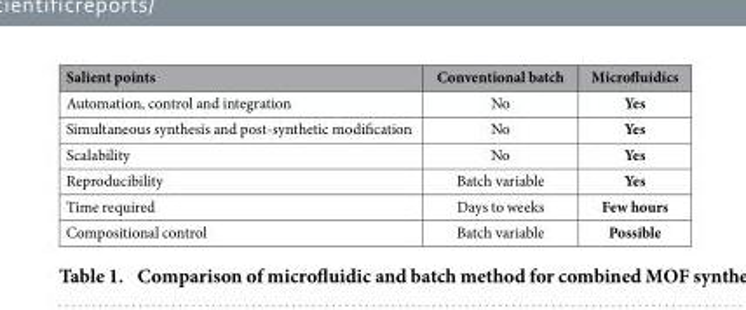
<table><thead><tr><td>Salient points</td><td>Conventional batch</td><td>Microfluidics</td></tr></thead><tbody><tr><td>Automation, control and integration</td><td>No</td><td>Yes</td></tr><tr><td>Simultaneous synthesis and post-synthetic modification</td><td>No</td><td>Yes</td></tr><tr><td>Scalability</td><td>No</td><td>Yes</td></tr><tr><td>Reproducibility</td><td>Batch variable</td><td>Yes</td></tr><tr><td>Time required</td><td>Days to weeks</td><td>Few hours</td></tr><tr><td>Compositional control</td><td>Batch variable</td><td>Possible</td></tr></tbody></table>